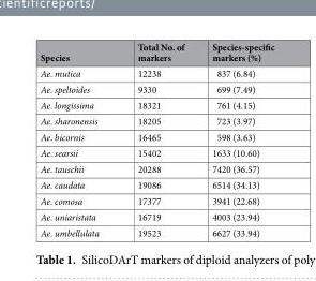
<table><thead><tr><td>Species</td><td>Total No. of markers</td><td>Species-specific markers (%)</td></tr></thead><tbody><tr><td>Ae. mutica</td><td>12238</td><td>837 (6.84)</td></tr><tr><td>Ae. speltoides</td><td>9330</td><td>699 (7.49)</td></tr><tr><td>Ae. longissima</td><td>18321</td><td>761 (4.15)</td></tr><tr><td>Ae. sharonensis</td><td>18205</td><td>723 (3.97)</td></tr><tr><td>Ae. bicornis</td><td>16465</td><td>598 (3.63)</td></tr><tr><td>Ae. searsii</td><td>15402</td><td>1633 (10.60)</td></tr><tr><td>Ae. tauschii</td><td>20288</td><td>7420 (36.57)</td></tr><tr><td>Ae. caudata</td><td>19086</td><td>6514 (34.13)</td></tr><tr><td>Ae. comosa</td><td>17377</td><td>3941 (22.68)</td></tr><tr><td>Ae. uniaristata</td><td>16719</td><td>4003 (23.94)</td></tr><tr><td>Ae. umbellulata</td><td>19523</td><td>6627 (33.94)</td></tr></tbody></table>